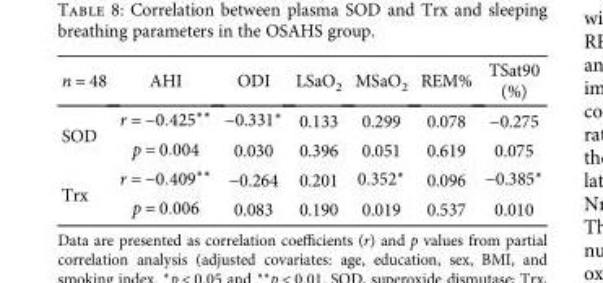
<table><thead><tr><td>n = 48</td><td>AHI</td><td>ODI</td><td>LSaO<sub>2</sub></td><td>MSaO<sub>2</sub></td><td>REM%</td><td>TSat90 (%)</td></tr></thead><tbody><tr><td rowspan="2">SOD</td><td>r = −0 425∗∗</td><td>−0.331∗</td><td>0.133</td><td>0.299</td><td>0.078</td><td>−0.275</td></tr><tr><td>p = 0 004</td><td>0.030</td><td>0.396</td><td>0.051</td><td>0.619</td><td>0.075</td></tr><tr><td rowspan="2">Trx</td><td>r = −0 409∗∗</td><td>−0.264</td><td>0.201</td><td>0.352∗</td><td>0.096</td><td>−0.385∗</td></tr><tr><td>p = 0 006</td><td>0.083</td><td>0.190</td><td>0.019</td><td>0.537</td><td>0.010</td></tr></tbody></table>